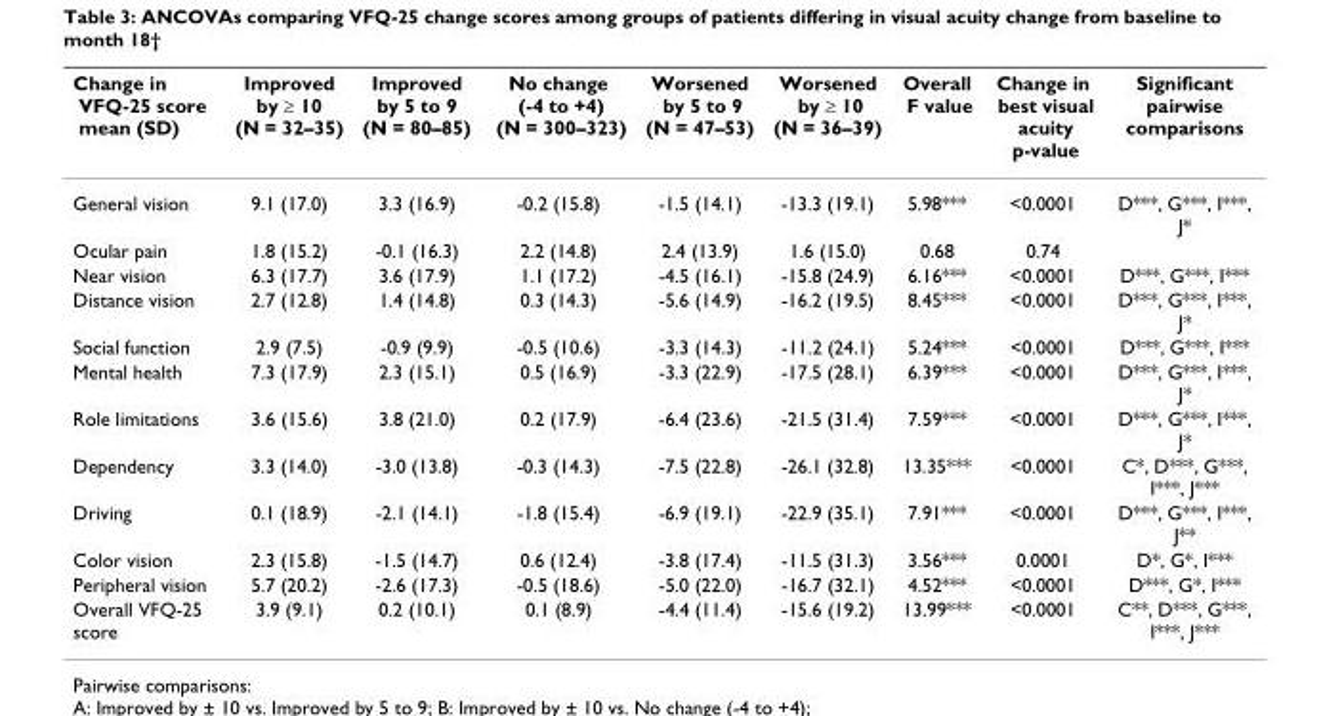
<table><thead><tr><td>Change in VFQ-25 score mean (SD)</td><td>Improved by ≥ 10 (N = 32–35)</td><td>Improved by 5 to 9 (N = 80–85)</td><td>No change (-4 to +4) (N = 300–323)</td><td>Worsened by 5 to 9 (N = 47–53)</td><td>Worsened by ≥ 10 (N = 36–39)</td><td>Overall F value</td><td>Change in best visual acuity p-value</td><td>Significant pairwise comparisons</td></tr></thead><tbody><tr><td>General vision</td><td>9.1 (17.0)</td><td>3.3 (16.9)</td><td>-0.2 (15.8)</td><td>-1.5 (14.1)</td><td>-13.3 (19.1)</td><td>5.98***</td><td>&lt;0.0001</td><td>D***, G***, I***, J*</td></tr><tr><td>Ocular pain</td><td>1.8 (15.2)</td><td>-0.1 (16.3)</td><td>2.2 (14.8)</td><td>2.4 (13.9)</td><td>1.6 (15.0)</td><td>0.68</td><td>0.74</td><td></td></tr><tr><td>Near vision</td><td>6.3 (17.7)</td><td>3.6 (17.9)</td><td>1.1 (17.2)</td><td>-4.5 (16.1)</td><td>-15.8 (24.9)</td><td>6.16***</td><td>&lt;0.0001</td><td>D***, G***, I***</td></tr><tr><td>Distance vision</td><td>2.7 (12.8)</td><td>1.4 (14.8)</td><td>0.3 (14.3)</td><td>-5.6 (14.9)</td><td>-16.2 (19.5)</td><td>8.45***</td><td>&lt;0.0001</td><td>D***, G***, I***, J*</td></tr><tr><td>Social function</td><td>2.9 (7.5)</td><td>-0.9 (9.9)</td><td>-0.5 (10.6)</td><td>-3.3 (14.3)</td><td>-11.2 (24.1)</td><td>5.24***</td><td>&lt;0.0001</td><td>D***, G***, I***</td></tr><tr><td>Mental health</td><td>7.3 (17.9)</td><td>2.3 (15.1)</td><td>0.5 (16.9)</td><td>-3.3 (22.9)</td><td>-17.5 (28.1)</td><td>6.39***</td><td>&lt;0.0001</td><td>D***, G***, I***, J*</td></tr><tr><td>Role limitations</td><td>3.6 (15.6)</td><td>3.8 (21.0)</td><td>0.2 (17.9)</td><td>-6.4 (23.6)</td><td>-21.5 (31.4)</td><td>7.59***</td><td>&lt;0.0001</td><td>D***, G***, I***, J*</td></tr><tr><td>Dependency</td><td>3.3 (14.0)</td><td>-3.0 (13.8)</td><td>-0.3 (14.3)</td><td>-7.5 (22.8)</td><td>-26.1 (32.8)</td><td>13.35***</td><td>&lt;0.0001</td><td>C*, D***, G***, I***, J***</td></tr><tr><td>Driving</td><td>0.1 (18.9)</td><td>-2.1 (14.1)</td><td>-1.8 (15.4)</td><td>-6.9 (19.1)</td><td>-22.9 (35.1)</td><td>7.91***</td><td>&lt;0.0001</td><td>D***, G***, I***, J**</td></tr><tr><td>Color vision</td><td>2.3 (15.8)</td><td>-1.5 (14.7)</td><td>0.6 (12.4)</td><td>-3.8 (17.4)</td><td>-11.5 (31.3)</td><td>3.56***</td><td>0.0001</td><td>D*, G*, I***</td></tr><tr><td>Peripheral vision</td><td>5.7 (20.2)</td><td>-2.6 (17.3)</td><td>-0.5 (18.6)</td><td>-5.0 (22.0)</td><td>-16.7 (32.1)</td><td>4.52***</td><td>&lt;0.0001</td><td>D***, G*, I***</td></tr><tr><td>Overall VFQ-25 score</td><td>3.9 (9.1)</td><td>0.2 (10.1)</td><td>0.1 (8.9)</td><td>-4.4 (11.4)</td><td>-15.6 (19.2)</td><td>13.99***</td><td>&lt;0.0001</td><td>C**, D***, G***, I***, J***</td></tr></tbody></table>